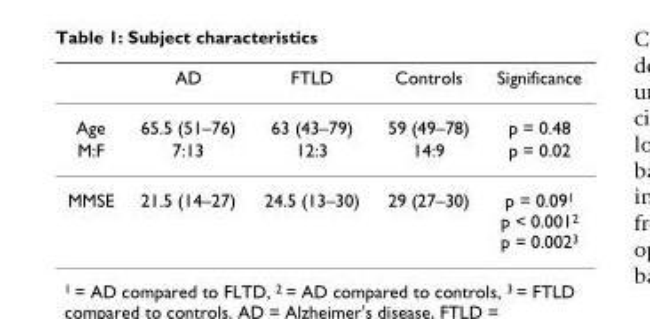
<table><thead><tr><td></td><td>AD</td><td>FTLD</td><td>Controls</td><td>Significance</td></tr></thead><tbody><tr><td>Age</td><td>65.5 (51–76)</td><td>63 (43–79)</td><td>59 (49–78)</td><td>p = 0.48</td></tr><tr><td>M:F</td><td>7:13</td><td>12:3</td><td>14:9</td><td>p = 0.02</td></tr><tr><td>MMSE</td><td>21.5 (14–27)</td><td>24.5 (13–30)</td><td>29 (27–30)</td><td>p = 0.09<sup>1</sup> p &lt; 0.001<sup>2</sup> p = 0.002<sup>3</sup></td></tr></tbody></table>